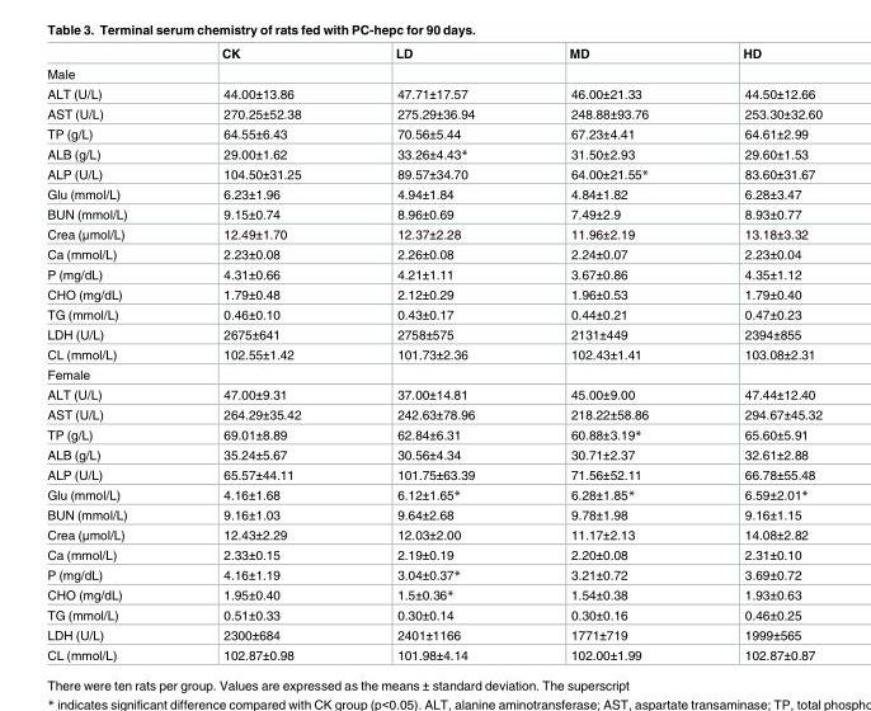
<table><thead><tr><td></td><td>CK</td><td>LD</td><td>MD</td><td>HD</td></tr></thead><tbody><tr><td colspan="5">Male</td></tr><tr><td>ALT (U/L)</td><td>44.00±13.86</td><td>47.71±17.57</td><td>46.00±21.33</td><td>44.50±12.66</td></tr><tr><td>AST (U/L)</td><td>270.25±52.38</td><td>275.29±36.94</td><td>248.88±93.76</td><td>253.30±32.60</td></tr><tr><td>TP (g/L)</td><td>64.55±6.43</td><td>70.56±5.44</td><td>67.23±4.41</td><td>64.61±2.99</td></tr><tr><td>ALB (g/L)</td><td>29.00±1.62</td><td>33.26±4.43*</td><td>31.50±2.93</td><td>29.60±1.53</td></tr><tr><td>ALP (U/L)</td><td>104.50±31.25</td><td>89.57±34.70</td><td>64.00±21.55*</td><td>83.60±31.67</td></tr><tr><td>Glu (mmol/L)</td><td>6.23±1.96</td><td>4.94±1.84</td><td>4.84±1.82</td><td>6.28±3.47</td></tr><tr><td>BUN (mmol/L)</td><td>9.15±0.74</td><td>8.96±0.69</td><td>7.49±2.9</td><td>8.93±0.77</td></tr><tr><td>Crea (μmol/L)</td><td>12.49±1.70</td><td>12.37±2.28</td><td>11.96±2.19</td><td>13.18±3.32</td></tr><tr><td>Ca (mmol/L)</td><td>2.23±0.08</td><td>2.26±0.08</td><td>2.24±0.07</td><td>2.23±0.04</td></tr><tr><td>P (mg/dL)</td><td>4.31±0.66</td><td>4.21±1.11</td><td>3.67±0.86</td><td>4.35±1.12</td></tr><tr><td>CHO (mg/dL)</td><td>1.79±0.48</td><td>2.12±0.29</td><td>1.96±0.53</td><td>1.79±0.40</td></tr><tr><td>TG (mmol/L)</td><td>0.46±0.10</td><td>0.43±0.17</td><td>0.44±0.21</td><td>0.47±0.23</td></tr><tr><td>LDH (U/L)</td><td>2675±641</td><td>2758±575</td><td>2131±449</td><td>2394±855</td></tr><tr><td>CL (mmol/L)</td><td>102.55±1.42</td><td>101.73±2.36</td><td>102.43±1.41</td><td>103.08±2.31</td></tr><tr><td colspan="5">Female</td></tr><tr><td>ALT (U/L)</td><td>47.00±9.31</td><td>37.00±14.81</td><td>45.00±9.00</td><td>47.44±12.40</td></tr><tr><td>AST (U/L)</td><td>264.29±35.42</td><td>242.63±78.96</td><td>218.22±58.86</td><td>294.67±45.32</td></tr><tr><td>TP (g/L)</td><td>69.01±8.89</td><td>62.84±6.31</td><td>60.88±3.19*</td><td>65.60±5.91</td></tr><tr><td>ALB (g/L)</td><td>35.24±5.67</td><td>30.56±4.34</td><td>30.71±2.37</td><td>32.61±2.88</td></tr><tr><td>ALP (U/L)</td><td>65.57±44.11</td><td>101.75±63.39</td><td>71.56±52.11</td><td>66.78±55.48</td></tr><tr><td>Glu (mmol/L)</td><td>4.16±1.68</td><td>6.12±1.65*</td><td>6.28±1.85*</td><td>6.59±2.01*</td></tr><tr><td>BUN (mmol/L)</td><td>9.16±1.03</td><td>9.64±2.68</td><td>9.78±1.98</td><td>9.16±1.15</td></tr><tr><td>Crea (μmol/L)</td><td>12.43±2.29</td><td>12.03±2.00</td><td>11.17±2.13</td><td>14.08±2.82</td></tr><tr><td>Ca (mmol/L)</td><td>2.33±0.15</td><td>2.19±0.19</td><td>2.20±0.08</td><td>2.31±0.10</td></tr><tr><td>P (mg/dL)</td><td>4.16±1.19</td><td>3.04±0.37*</td><td>3.21±0.72</td><td>3.69±0.72</td></tr><tr><td>CHO (mg/dL)</td><td>1.95±0.40</td><td>1.5±0.36*</td><td>1.54±0.38</td><td>1.93±0.63</td></tr><tr><td>TG (mmol/L)</td><td>0.51±0.33</td><td>0.30±0.14</td><td>0.30±0.16</td><td>0.46±0.25</td></tr><tr><td>LDH (U/L)</td><td>2300±684</td><td>2401±1166</td><td>1771±719</td><td>1999±565</td></tr><tr><td>CL (mmol/L)</td><td>102.87±0.98</td><td>101.98±4.14</td><td>102.00±1.99</td><td>102.87±0.87</td></tr></tbody></table>